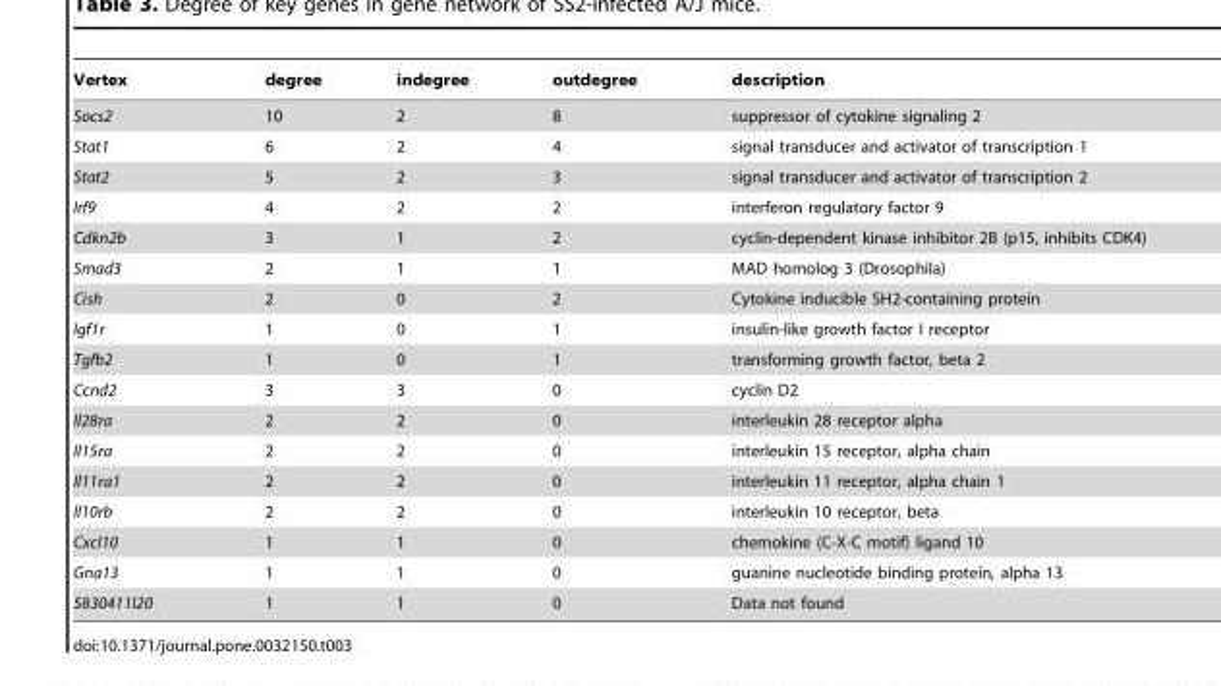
<table><thead><tr><td>Vertex</td><td>degree</td><td>indegree</td><td>outdegree</td><td>description</td></tr></thead><tbody><tr><td>Socs2</td><td>10</td><td>2</td><td>8</td><td>suppressor of cytokine signaling 2</td></tr><tr><td>Stat1</td><td>6</td><td>2</td><td>4</td><td>signal transducer and activator of transcription 1</td></tr><tr><td>Stat2</td><td>5</td><td>2</td><td>3</td><td>signal transducer and activator of transcription 2</td></tr><tr><td>Irf9</td><td>4</td><td>2</td><td>2</td><td>interferon regulatory factor 9</td></tr><tr><td>Cdkn2b</td><td>3</td><td>1</td><td>2</td><td>cyclin-dependent kinase inhibitor 2B (p15, inhibits CDK4)</td></tr><tr><td>Smad3</td><td>2</td><td>1</td><td>1</td><td>MAD homolog 3 (Drosophila)</td></tr><tr><td>Cish</td><td>2</td><td>0</td><td>2</td><td>Cytokine inducible SH2-containing protein</td></tr><tr><td>Igf1r</td><td>1</td><td>0</td><td>1</td><td>insulin-like growth factor I receptor</td></tr><tr><td>Tgfb2</td><td>1</td><td>0</td><td>1</td><td>transforming growth factor, beta 2</td></tr><tr><td>Ccnd2</td><td>3</td><td>3</td><td>0</td><td>cyclin D2</td></tr><tr><td>Il28ra</td><td>2</td><td>2</td><td>0</td><td>interleukin 28 receptor alpha</td></tr><tr><td>Il15ra</td><td>2</td><td>2</td><td>0</td><td>interleukin 15 receptor, alpha chain</td></tr><tr><td>Il11ra1</td><td>2</td><td>2</td><td>0</td><td>interleukin 11 receptor, alpha chain 1</td></tr><tr><td>Il10rb</td><td>2</td><td>2</td><td>0</td><td>interleukin 10 receptor, beta</td></tr><tr><td>Cxcl10</td><td>1</td><td>1</td><td>0</td><td>chemokine (C-X-C motif) ligand 10</td></tr><tr><td>Gna13</td><td>1</td><td>1</td><td>0</td><td>guanine nucleotide binding protein, alpha 13</td></tr><tr><td>5830411I20</td><td>1</td><td>1</td><td>0</td><td>Data not found</td></tr></tbody></table>